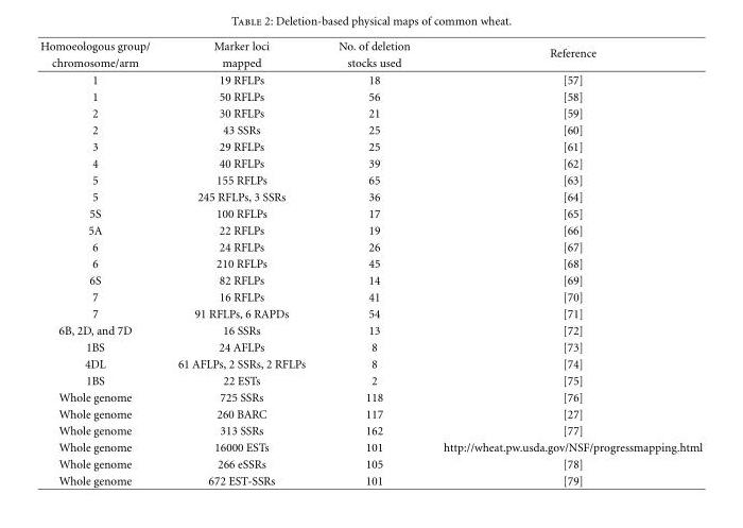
<table><thead><tr><td rowspan="2">Homoeologous group/ chromosome/arm</td><td rowspan="2">Marker loci mapped</td><td rowspan="2">No. of deletion stocks used</td><td rowspan="2">Reference</td></tr><tr></tr></thead><tbody><tr><td>1</td><td>19 RFLPs</td><td>18</td><td>[57]</td></tr><tr><td>1</td><td>50 RFLPs</td><td>56</td><td>[58]</td></tr><tr><td>2</td><td>30 RFLPs</td><td>21</td><td>[59]</td></tr><tr><td>2</td><td>43 SSRs</td><td>25</td><td>[60]</td></tr><tr><td>3</td><td>29 RFLPs</td><td>25</td><td>[61]</td></tr><tr><td>4</td><td>40 RFLPs</td><td>39</td><td>[62]</td></tr><tr><td>5</td><td>155 RFLPs</td><td>65</td><td>[63]</td></tr><tr><td>5</td><td>245 RFLPs, 3 SSRs</td><td>36</td><td>[64]</td></tr><tr><td>5S</td><td>100 RFLPs</td><td>17</td><td>[65]</td></tr><tr><td>5A</td><td>22 RFLPs</td><td>19</td><td>[66]</td></tr><tr><td>6</td><td>24 RFLPs</td><td>26</td><td>[67]</td></tr><tr><td>6</td><td>210 RFLPs</td><td>45</td><td>[68]</td></tr><tr><td>6S</td><td>82 RFLPs</td><td>14</td><td>[69]</td></tr><tr><td>7</td><td>16 RFLPs</td><td>41</td><td>[70]</td></tr><tr><td>7</td><td>91 RFLPs, 6 RAPDs</td><td>54</td><td>[71]</td></tr><tr><td>6B, 2D, and 7D</td><td>16 SSRs</td><td>13</td><td>[72]</td></tr><tr><td>1BS</td><td>24 AFLPs</td><td>8</td><td>[73]</td></tr><tr><td>4DL</td><td>61 AFLPs, 2 SSRs, 2 RFLPs</td><td>8</td><td>[74]</td></tr><tr><td>1BS</td><td>22 ESTs</td><td>2</td><td>[75]</td></tr><tr><td>Whole genome</td><td>725 SSRs</td><td>118</td><td>[76]</td></tr><tr><td>Whole genome</td><td>260 BARC</td><td>117</td><td>[27]</td></tr><tr><td>Whole genome</td><td>313 SSRs</td><td>162</td><td>[77]</td></tr><tr><td>Whole genome</td><td>16000 ESTs</td><td>101</td><td>http://wheat.pw.usda.gov/NSF/progressmapping.html</td></tr><tr><td>Whole genome</td><td>266 eSSRs</td><td>105</td><td>[78]</td></tr><tr><td>Whole genome</td><td>672 EST-SSRs</td><td>101</td><td>[79]</td></tr></tbody></table>